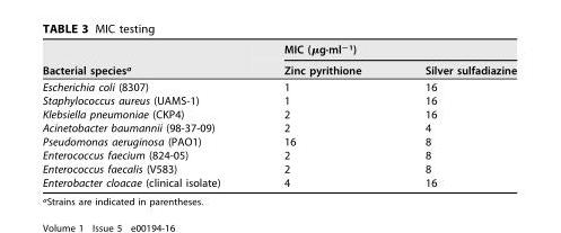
<table><thead><tr><td rowspan="2">Bacterial species<sup>a</sup></td><td colspan="2">MIC (µg·ml<sup>−1</sup>)</td></tr><tr><td>Zinc pyrithione</td><td>Silver sulfadiazine</td></tr></thead><tbody><tr><td>Escherichia coli (8307)</td><td>1</td><td>16</td></tr><tr><td>Staphylococcus aureus (UAMS-1)</td><td>1</td><td>16</td></tr><tr><td>Klebsiella pneumoniae (CKP4)</td><td>2</td><td>16</td></tr><tr><td>Acinetobacter baumannii (98-37-09)</td><td>2</td><td>4</td></tr><tr><td>Pseudomonas aeruginosa (PAO1)</td><td>16</td><td>8</td></tr><tr><td>Enterococcus faecium (824-05)</td><td>2</td><td>8</td></tr><tr><td>Enterococcus faecalis (V583)</td><td>2</td><td>8</td></tr><tr><td>Enterobacter cloacae (clinical isolate)</td><td>4</td><td>16</td></tr></tbody></table>